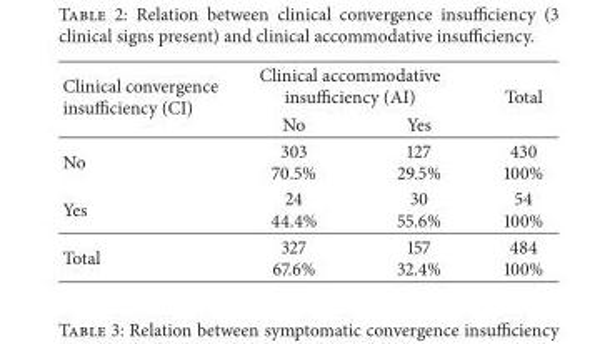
<table><thead><tr><td rowspan="2">Clinical convergence insufficiency (CI)</td><td colspan="2">Clinical accommodative insufficiency (AI)</td><td rowspan="2">Total</td></tr><tr><td>No</td><td>Yes</td></tr></thead><tbody><tr><td>No</td><td>303 70.5%</td><td>127 29.5%</td><td>430 100%</td></tr><tr><td>Yes</td><td>24 44.4%</td><td>30 55.6%</td><td>54 100%</td></tr><tr><td>Total</td><td>327 67.6%</td><td>157 32.4%</td><td>484 100%</td></tr></tbody></table>